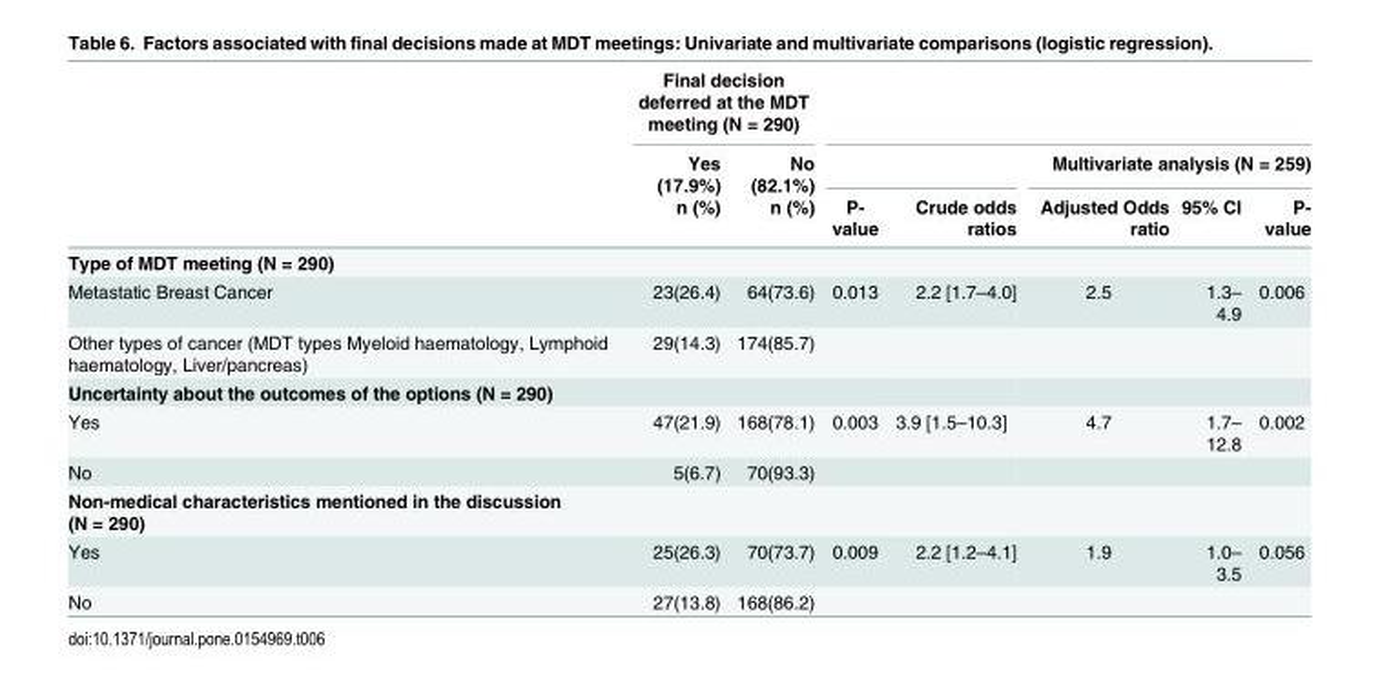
<table><thead><tr><td rowspan="3"></td><td colspan="2">Final decision deferred at the MDT meeting (N = 290)</td><td rowspan="3">P- value</td><td rowspan="3">Crude odds ratios</td><td></td><td></td><td></td></tr><tr><td rowspan="2">Yes (17.9%) n (%)</td><td rowspan="2">No (82.1%) n (%)</td><td colspan="3">Multivariate analysis (N = 259)</td></tr><tr><td>Adjusted Odds ratio</td><td>95% CI</td><td>P- value</td></tr></thead><tbody><tr><td colspan="8">Type of MDT meeting (N = 290)</td></tr><tr><td>Metastatic Breast Cancer</td><td>23(26.4)</td><td>64(73.6)</td><td>0.013</td><td>2.2 [1.7–4.0]</td><td>2.5</td><td>1.3– 4.9</td><td>0.006</td></tr><tr><td>Other types of cancer (MDT types Myeloid haematology, Lymphoid haematology, Liver/pancreas)</td><td>29(14.3)</td><td>174(85.7)</td><td></td><td></td><td></td><td></td><td></td></tr><tr><td colspan="8">Uncertainty about the outcomes of the options (N = 290)</td></tr><tr><td>Yes</td><td>47(21.9)</td><td>168(78.1)</td><td>0.003</td><td>3.9 [1.5–10.3]</td><td>4.7</td><td>1.7– 12.8</td><td>0.002</td></tr><tr><td>No</td><td>5(6.7)</td><td>70(93.3)</td><td></td><td></td><td></td><td></td><td></td></tr><tr><td colspan="8">Non-medical characteristics mentioned in the discussion (N = 290)</td></tr><tr><td>Yes</td><td>25(26.3)</td><td>70(73.7)</td><td>0.009</td><td>2.2 [1.2–4.1]</td><td>1.9</td><td>1.0– 3.5</td><td>0.056</td></tr><tr><td>No</td><td>27(13.8)</td><td>168(86.2)</td><td></td><td></td><td></td><td></td><td></td></tr></tbody></table>